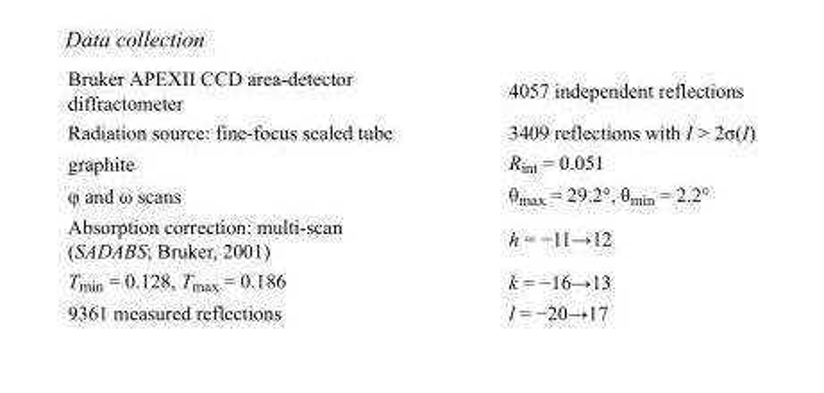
<table><tbody><tr><td>Bruker APEXII CCD area-detector diffractometer</td><td>4057 independent reflections</td></tr><tr><td>Radiation source: fine-focus sealed tube</td><td>3409 reflections with I &gt; 2σ(I)</td></tr><tr><td>graphite</td><td>R<sub>int</sub> = 0.051</td></tr><tr><td>φ and ω scans</td><td>θ<sub>max</sub> = 29.2°, θ<sub>min</sub> = 2.2°</td></tr><tr><td>Absorption correction: multi-scan (SADABS; Bruker, 2001)</td><td>h = −11→12</td></tr><tr><td>T<sub>min</sub> = 0.128, T<sub>max</sub> = 0.186</td><td>k = −16→13</td></tr><tr><td>9361 measured reflections</td><td>l = −20→17</td></tr></tbody></table>